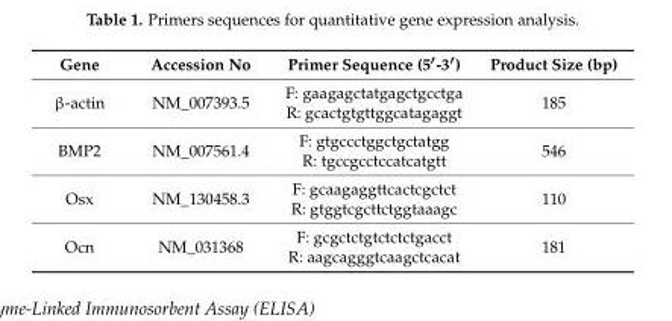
<table><thead><tr><td>Gene</td><td>Accession No</td><td>Primer Sequence (5′-3′)</td><td>Product Size (bp)</td></tr></thead><tbody><tr><td>β-actin</td><td>NM_007393.5</td><td>F: gaagagctatgagctgcctga R: gcactgtgttggcatagaggt</td><td>185</td></tr><tr><td>BMP2</td><td>NM_007561.4</td><td>F: gtgccctggctgctatgg R: tgccgcctccatcatgtt</td><td>546</td></tr><tr><td>Osx</td><td>NM_130458.3</td><td>F: gcaagaggttcactcgctct R: gtggtcgcttctggtaaagc</td><td>110</td></tr><tr><td>Ocn</td><td>NM_031368</td><td>F: gcgctctgtctctctgacct R: aagcagggtcaagctcacat</td><td>181</td></tr></tbody></table>